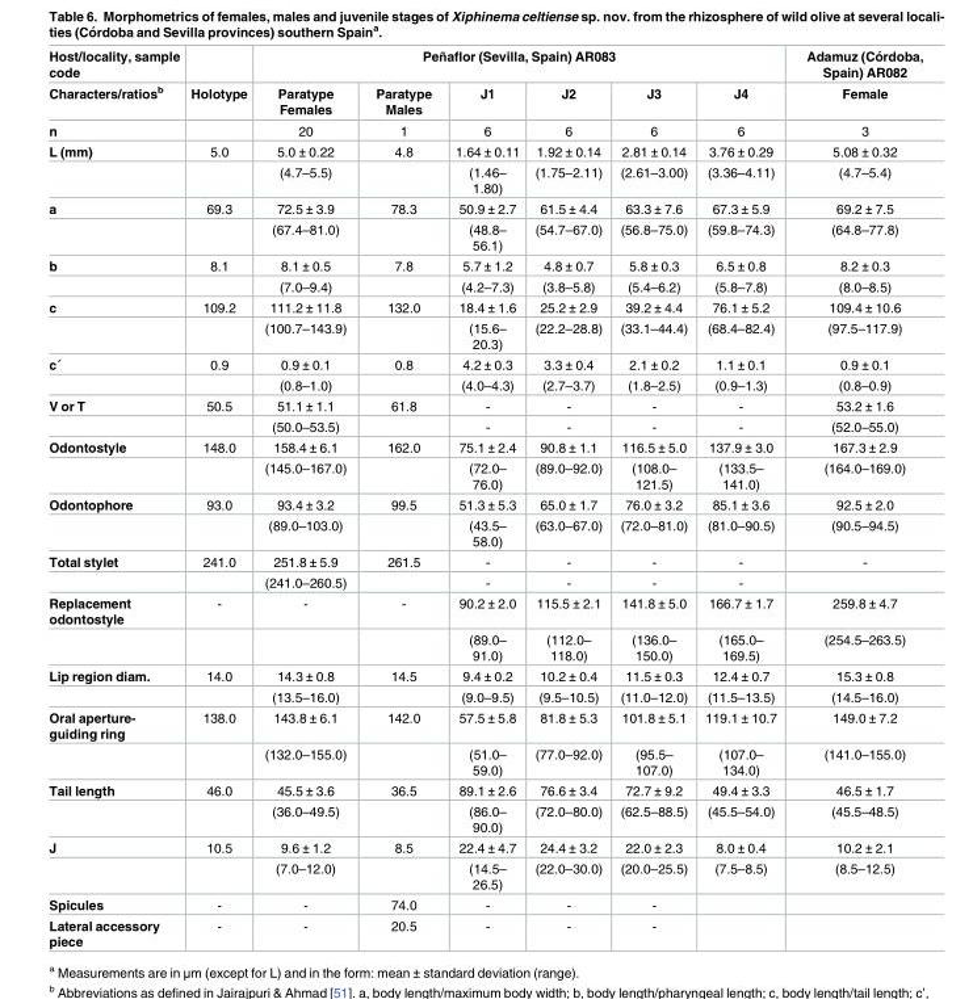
<table><thead><tr><td rowspan="2">Host/locality, sample code Characters/ratios<sup>b</sup></td><td rowspan="2">Holotype</td><td colspan="6">Peñaflor (Sevilla, Spain) AR083</td><td rowspan="2">Adamuz (Co´rdoba, Spain) AR082 Female</td></tr><tr><td>Paratype Females</td><td>Paratype Males</td><td>J1</td><td>J2</td><td>J3</td><td>J4</td></tr></thead><tbody><tr><td>n</td><td></td><td>20</td><td>1</td><td>6</td><td>6</td><td>6</td><td>6</td><td>3</td></tr><tr><td rowspan="2">L (mm)</td><td>5.0</td><td>5.0 ± 0.22</td><td>4.8</td><td>1.64 ± 0.11</td><td>1.92 ± 0.14</td><td>2.81 ± 0.14</td><td>3.76 ± 0.29</td><td>5.08 ± 0.32</td></tr><tr><td></td><td>(4.7–5.5)</td><td></td><td>(1.46– 1.80)</td><td>(1.75–2.11)</td><td>(2.61–3.00)</td><td>(3.36–4.11)</td><td>(4.7–5.4)</td></tr><tr><td rowspan="2">a</td><td>69.3</td><td>72.5 ± 3.9</td><td>78.3</td><td>50.9 ± 2.7</td><td>61.5 ± 4.4</td><td>63.3 ± 7.6</td><td>67.3 ± 5.9</td><td>69.2 ± 7.5</td></tr><tr><td></td><td>(67.4–81.0)</td><td></td><td>(48.8– 56.1)</td><td>(54.7–67.0)</td><td>(56.8–75.0)</td><td>(59.8–74.3)</td><td>(64.8–77.8)</td></tr><tr><td rowspan="2">b</td><td>8.1</td><td>8.1 ± 0.5</td><td>7.8</td><td>5.7 ± 1.2</td><td>4.8 ± 0.7</td><td>5.8 ± 0.3</td><td>6.5 ± 0.8</td><td>8.2 ± 0.3</td></tr><tr><td></td><td>(7.0–9.4)</td><td></td><td>(4.2–7.3)</td><td>(3.8–5.8)</td><td>(5.4–6.2)</td><td>(5.8–7.8)</td><td>(8.0–8.5)</td></tr><tr><td rowspan="2">c</td><td>109.2</td><td>111.2 ± 11.8</td><td>132.0</td><td>18.4 ± 1.6</td><td>25.2 ± 2.9</td><td>39.2 ± 4.4</td><td>76.1 ± 5.2</td><td>109.4 ± 10.6</td></tr><tr><td></td><td>(100.7–143.9)</td><td></td><td>(15.6– 20.3)</td><td>(22.2–28.8)</td><td>(33.1–44.4)</td><td>(68.4–82.4)</td><td>(97.5–117.9)</td></tr><tr><td rowspan="2">c´</td><td>0.9</td><td>0.9 ± 0.1</td><td>0.8</td><td>4.2 ± 0.3</td><td>3.3 ± 0.4</td><td>2.1 ± 0.2</td><td>1.1 ± 0.1</td><td>0.9 ± 0.1</td></tr><tr><td></td><td>(0.8–1.0)</td><td></td><td>(4.0–4.3)</td><td>(2.7–3.7)</td><td>(1.8–2.5)</td><td>(0.9–1.3)</td><td>(0.8–0.9)</td></tr><tr><td rowspan="2">V or T</td><td>50.5</td><td>51.1 ± 1.1</td><td>61.8</td><td>-</td><td>-</td><td>-</td><td>-</td><td>53.2 ± 1.6</td></tr><tr><td></td><td>(50.0–53.5)</td><td></td><td>-</td><td>-</td><td>-</td><td>-</td><td>(52.0–55.0)</td></tr><tr><td rowspan="2">Odontostyle</td><td>148.0</td><td>158.4 ± 6.1</td><td>162.0</td><td>75.1 ± 2.4</td><td>90.8 ± 1.1</td><td>116.5 ± 5.0</td><td>137.9 ± 3.0</td><td>167.3 ± 2.9</td></tr><tr><td></td><td>(145.0–167.0)</td><td></td><td>(72.0– 76.0)</td><td>(89.0–92.0)</td><td>(108.0– 121.5)</td><td>(133.5– 141.0)</td><td>(164.0–169.0)</td></tr><tr><td rowspan="2">Odontophore</td><td>93.0</td><td>93.4 ± 3.2</td><td>99.5</td><td>51.3 ± 5.3</td><td>65.0 ± 1.7</td><td>76.0 ± 3.2</td><td>85.1 ± 3.6</td><td>92.5 ± 2.0</td></tr><tr><td></td><td>(89.0–103.0)</td><td></td><td>(43.5– 58.0)</td><td>(63.0–67.0)</td><td>(72.0–81.0)</td><td>(81.0–90.5)</td><td>(90.5–94.5)</td></tr><tr><td rowspan="2">Total stylet</td><td>241.0</td><td>251.8 ± 5.9</td><td>261.5</td><td>-</td><td>-</td><td>-</td><td>-</td><td>-</td></tr><tr><td></td><td>(241.0–260.5)</td><td></td><td>-</td><td>-</td><td>-</td><td>-</td><td></td></tr><tr><td rowspan="2">Replacement odontostyle</td><td>-</td><td>-</td><td>-</td><td>90.2 ± 2.0</td><td>115.5 ± 2.1</td><td>141.8 ± 5.0</td><td>166.7 ± 1.7</td><td>259.8 ± 4.7</td></tr><tr><td></td><td></td><td></td><td>(89.0– 91.0)</td><td>(112.0– 118.0)</td><td>(136.0– 150.0)</td><td>(165.0– 169.5)</td><td>(254.5–263.5)</td></tr><tr><td rowspan="2">Lip region diam.</td><td>14.0</td><td>14.3 ± 0.8</td><td>14.5</td><td>9.4 ± 0.2</td><td>10.2 ± 0.4</td><td>11.5 ± 0.3</td><td>12.4 ± 0.7</td><td>15.3 ± 0.8</td></tr><tr><td></td><td>(13.5–16.0)</td><td></td><td>(9.0–9.5)</td><td>(9.5–10.5)</td><td>(11.0–12.0)</td><td>(11.5–13.5)</td><td>(14.5–16.0)</td></tr><tr><td rowspan="2">Oral aperture- guiding ring</td><td>138.0</td><td>143.8 ± 6.1</td><td>142.0</td><td>57.5 ± 5.8</td><td>81.8 ± 5.3</td><td>101.8 ± 5.1</td><td>119.1 ± 10.7</td><td>149.0 ± 7.2</td></tr><tr><td></td><td>(132.0–155.0)</td><td></td><td>(51.0– 59.0)</td><td>(77.0–92.0)</td><td>(95.5– 107.0)</td><td>(107.0– 134.0)</td><td>(141.0–155.0)</td></tr><tr><td rowspan="2">Tail length</td><td>46.0</td><td>45.5 ± 3.6</td><td>36.5</td><td>89.1 ± 2.6</td><td>76.6 ± 3.4</td><td>72.7 ± 9.2</td><td>49.4 ± 3.3</td><td>46.5 ± 1.7</td></tr><tr><td></td><td>(36.0–49.5)</td><td></td><td>(86.0– 90.0)</td><td>(72.0–80.0)</td><td>(62.5–88.5)</td><td>(45.5–54.0)</td><td>(45.5–48.5)</td></tr><tr><td rowspan="2">J</td><td>10.5</td><td>9.6 ± 1.2</td><td>8.5</td><td>22.4 ± 4.7</td><td>24.4 ± 3.2</td><td>22.0 ± 2.3</td><td>8.0 ± 0.4</td><td>10.2 ± 2.1</td></tr><tr><td></td><td>(7.0–12.0)</td><td></td><td>(14.5– 26.5)</td><td>(22.0–30.0)</td><td>(20.0–25.5)</td><td>(7.5–8.5)</td><td>(8.5–12.5)</td></tr><tr><td>Spicules</td><td>-</td><td>-</td><td>74.0</td><td>-</td><td>-</td><td>-</td><td></td><td></td></tr><tr><td>Lateral accessory piece</td><td>-</td><td>-</td><td>20.5</td><td>-</td><td>-</td><td>-</td><td></td><td></td></tr></tbody></table>